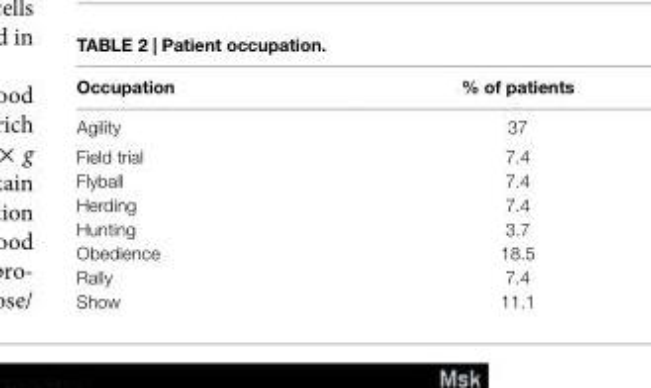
<table><thead><tr><td>Occupation</td><td>% of patients</td></tr></thead><tbody><tr><td>Agility</td><td>37</td></tr><tr><td>Field trial</td><td>7.4</td></tr><tr><td>Flyball</td><td>7.4</td></tr><tr><td>Herding</td><td>7.4</td></tr><tr><td>Hunting</td><td>3.7</td></tr><tr><td>Obedience</td><td>18.5</td></tr><tr><td>Rally</td><td>7.4</td></tr><tr><td>Show</td><td>11.1</td></tr></tbody></table>